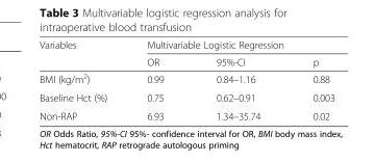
<table><thead><tr><td rowspan="2">Variables</td><td colspan="3">Multivariable Logistic Regression</td></tr><tr><td>OR</td><td>95%-CI</td><td>p</td></tr></thead><tbody><tr><td>BMI (kg/m<sup>2</sup>)</td><td>0.99</td><td>0.84–1.16</td><td>0.88</td></tr><tr><td>Baseline Hct (%)</td><td>0.75</td><td>0.62–0.91</td><td>0.003</td></tr><tr><td>Non-RAP</td><td>6.93</td><td>1.34–35.74</td><td>0.02</td></tr></tbody></table>